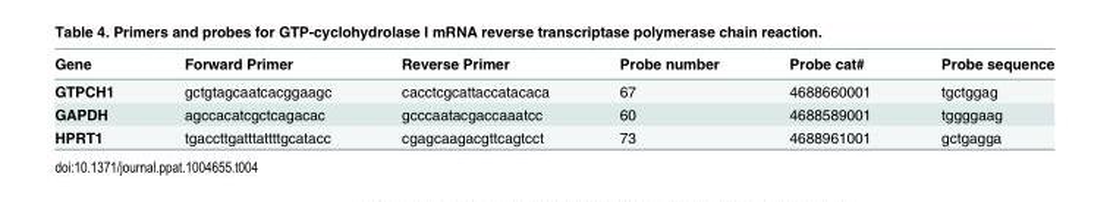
<table><thead><tr><td>Gene</td><td>Forward Primer</td><td>Reverse Primer</td><td>Probe number</td><td>Probe cat#</td><td>Probe sequence</td></tr></thead><tbody><tr><td>GTPCH1</td><td>gctgtagcaatcacggaagc</td><td>cacctcgcattaccatacaca</td><td>67</td><td>4688660001</td><td>tgctggag</td></tr><tr><td>GAPDH</td><td>agccacatcgctcagacac</td><td>gcccaatacgaccaaatcc</td><td>60</td><td>4688589001</td><td>tggggaag</td></tr><tr><td>HPRT1</td><td>tgaccttgatttattttgcatacc</td><td>cgagcaagacgttcagtcct</td><td>73</td><td>4688961001</td><td>gctgagga</td></tr></tbody></table>